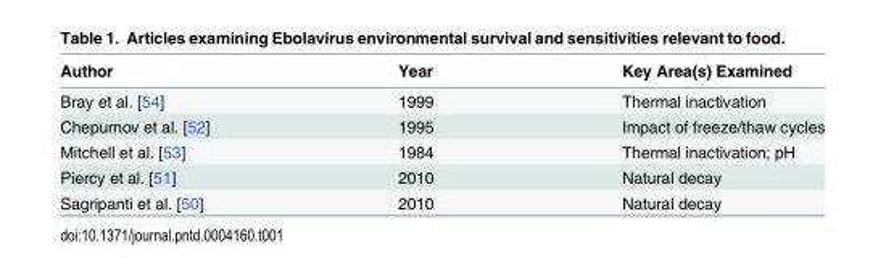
<table><thead><tr><td>Author</td><td>Year</td><td>Key Area(s) Examined</td></tr></thead><tbody><tr><td>Bray et al. [54]</td><td>1999</td><td>Thermal inactivation</td></tr><tr><td>Chepurnov et al. [52]</td><td>1995</td><td>Impact of freeze/thaw cycles</td></tr><tr><td>Mitchell et al. [53]</td><td>1984</td><td>Thermal inactivation; pH</td></tr><tr><td>Piercy et al. [51]</td><td>2010</td><td>Natural decay</td></tr><tr><td>Sagripanti et al. [50]</td><td>2010</td><td>Natural decay</td></tr></tbody></table>